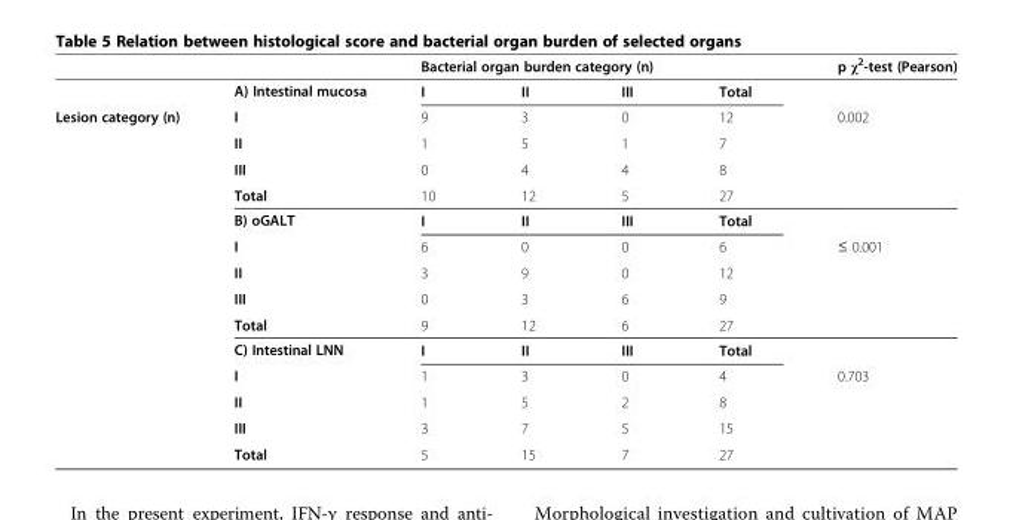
<table><thead><tr><td rowspan="2"></td><td rowspan="2">A) Intestinal mucosa</td><td colspan="4">Bacterial organ burden category (n)</td><td rowspan="2">p χ<sup>2</sup>-test (Pearson)</td></tr><tr><td>I</td><td>II</td><td>III</td><td>Total</td></tr></thead><tbody><tr><td rowspan="14">Lesion category (n)</td><td>I</td><td>9</td><td>3</td><td>0</td><td>12</td><td rowspan="4">0.002</td></tr><tr><td>II</td><td>1</td><td>5</td><td>1</td><td>7</td></tr><tr><td>III</td><td>0</td><td>4</td><td>4</td><td>8</td></tr><tr><td>Total</td><td>10</td><td>12</td><td>5</td><td>27</td></tr><tr><td>B) oGALT</td><td>I</td><td>II</td><td>III</td><td>Total</td><td></td></tr><tr><td>I</td><td>6</td><td>0</td><td>0</td><td>6</td><td rowspan="4">≤ 0.001</td></tr><tr><td>II</td><td>3</td><td>9</td><td>0</td><td>12</td></tr><tr><td>III</td><td>0</td><td>3</td><td>6</td><td>9</td></tr><tr><td>Total</td><td>9</td><td>12</td><td>6</td><td>27</td></tr><tr><td>C) Intestinal LNN</td><td>I</td><td>II</td><td>III</td><td>Total</td><td></td></tr><tr><td>I</td><td>1</td><td>3</td><td>0</td><td>4</td><td rowspan="4">0.703</td></tr><tr><td>II</td><td>1</td><td>5</td><td>2</td><td>8</td></tr><tr><td>III</td><td>3</td><td>7</td><td>5</td><td>15</td></tr><tr><td>Total</td><td>5</td><td>15</td><td>7</td><td>27</td></tr></tbody></table>